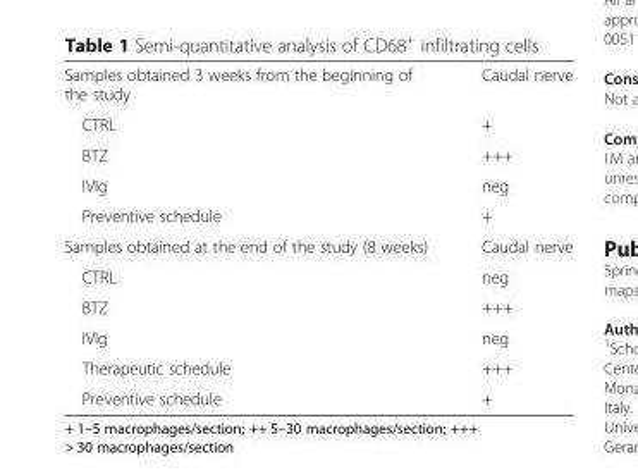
<table><tbody><tr><td>Samples obtained 3 weeks from the beginning of the study</td><td>Caudal nerve</td></tr><tr><td>CTRL</td><td>+</td></tr><tr><td>BTZ</td><td>+++</td></tr><tr><td>IVIg</td><td>neg</td></tr><tr><td>Preventive schedule</td><td>+</td></tr><tr><td>Samples obtained at the end of the study (8 weeks)</td><td>Caudal nerve</td></tr><tr><td>CTRL</td><td>neg</td></tr><tr><td>BTZ</td><td>+++</td></tr><tr><td>IVIg</td><td>neg</td></tr><tr><td>Therapeutic schedule</td><td>+++</td></tr><tr><td>Preventive schedule</td><td>+</td></tr></tbody></table>